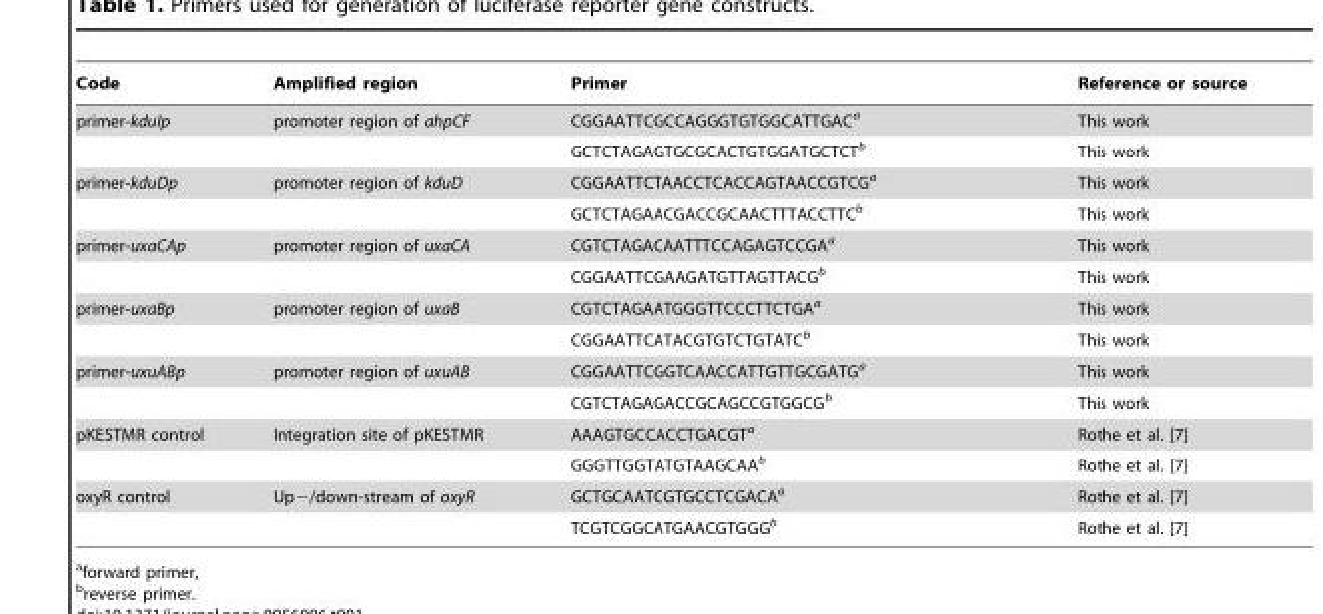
<table><thead><tr><td>Code</td><td>Amplified region</td><td>Primer</td><td>Reference or source</td></tr></thead><tbody><tr><td rowspan="2">primer-kduIp</td><td>promoter region of ahpCF</td><td>CGGAATTCGCCAGGGTGTGGCATTGAC<sup>a</sup></td><td>This work</td></tr><tr><td></td><td>GCTCTAGAGTGCGCACTGTGGATGCTCT<sup>b</sup></td><td>This work</td></tr><tr><td rowspan="2">primer-kduDp</td><td>promoter region of kduD</td><td>CGGAATTCTAACCTCACCAGTAACCGTCG<sup>a</sup></td><td>This work</td></tr><tr><td></td><td>GCTCTAGAACGACCGCAACTTTACCTTC<sup>b</sup></td><td>This work</td></tr><tr><td rowspan="2">primer-uxaCAp</td><td>promoter region of uxaCA</td><td>CGTCTAGACAATTTCCAGAGTCCGA<sup>a</sup></td><td>This work</td></tr><tr><td></td><td>CGGAATTCGAAGATGTTAGTTACG<sup>b</sup></td><td>This work</td></tr><tr><td rowspan="2">primer-uxaBp</td><td>promoter region of uxaB</td><td>CGTCTAGAATGGGTTCCCTTCTGA<sup>a</sup></td><td>This work</td></tr><tr><td></td><td>CGGAATTCATACGTGTCTGTATC<sup>b</sup></td><td>This work</td></tr><tr><td rowspan="2">primer-uxuABp</td><td>promoter region of uxuAB</td><td>CGGAATTCGGTCAACCATTGTTGCGATG<sup>a</sup></td><td>This work</td></tr><tr><td></td><td>CGTCTAGAGACCGCAGCCGTGGCG<sup>b</sup></td><td>This work</td></tr><tr><td rowspan="2">pKESTMR control</td><td>Integration site of pKESTMR</td><td>AAAGTGCCACCTGACGT<sup>a</sup></td><td>Rothe et al. [7]</td></tr><tr><td></td><td>GGGTTGGTATGTAAGCAA<sup>b</sup></td><td>Rothe et al. [7]</td></tr><tr><td rowspan="2">oxyR control</td><td>Up−/down-stream of oxyR</td><td>GCTGCAATCGTGCCTCGACA<sup>a</sup></td><td>Rothe et al. [7]</td></tr><tr><td></td><td>TCGTCGGCATGAACGTGGG<sup>b</sup></td><td>Rothe et al. [7]</td></tr></tbody></table>